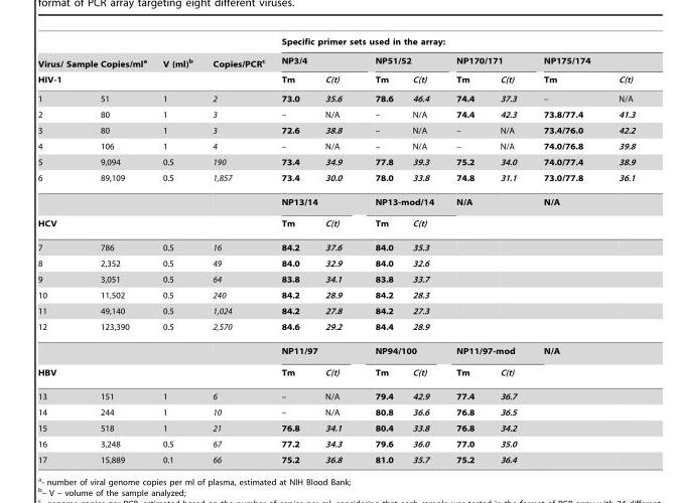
<table><thead><tr><td rowspan="3">Virus/ Sample HIV-1</td><td rowspan="3">Copies/ml<sup>a</sup></td><td rowspan="3">V (ml)<sup>b</sup></td><td rowspan="3">Copies/PCR<sup>c</sup></td><td colspan="8">Specific primer sets used in the array:</td></tr><tr><td colspan="2">NP3/4</td><td colspan="2">NP51/52</td><td colspan="2">NP170/171</td><td colspan="2">NP175/174</td></tr><tr><td>Tm</td><td>C(t)</td><td>Tm</td><td>C(t)</td><td>Tm</td><td>C(t)</td><td>Tm</td><td>C(t)</td></tr></thead><tbody><tr><td>1</td><td>51</td><td>1</td><td>2</td><td>73.0</td><td>35.6</td><td>78.6</td><td>46.4</td><td>74.4</td><td>37.3</td><td>–</td><td>N/A</td></tr><tr><td>2</td><td>80</td><td>1</td><td>3</td><td>–</td><td>N/A</td><td>–</td><td>N/A</td><td>74.4</td><td>42.3</td><td>73.8/77.4</td><td>41.3</td></tr><tr><td>3</td><td>80</td><td>1</td><td>3</td><td>72.6</td><td>38.8</td><td>–</td><td>N/A</td><td>–</td><td>N/A</td><td>73.4/76.0</td><td>42.2</td></tr><tr><td>4</td><td>106</td><td>1</td><td>4</td><td>–</td><td>N/A</td><td>–</td><td>N/A</td><td>–</td><td>N/A</td><td>74.0/76.8</td><td>39.8</td></tr><tr><td>5</td><td>9,094</td><td>0.5</td><td>190</td><td>73.4</td><td>34.9</td><td>77.8</td><td>39.3</td><td>75.2</td><td>34.0</td><td>74.0/77.4</td><td>38.9</td></tr><tr><td rowspan="2">6</td><td>89,109</td><td>0.5</td><td>1,857</td><td>73.4</td><td>30.0</td><td>78.0</td><td>33.8</td><td>74.8</td><td>31.1</td><td>73.0/77.8</td><td>36.1</td></tr><tr><td></td><td></td><td></td><td colspan="2">NP13/14</td><td colspan="2">NP13-mod/14</td><td colspan="2">N/A</td><td colspan="2">N/A</td></tr><tr><td>HCV</td><td></td><td></td><td></td><td>Tm</td><td>C(t)</td><td>Tm</td><td>C(t)</td><td></td><td></td><td></td><td></td></tr><tr><td>7</td><td>786</td><td>0.5</td><td>16</td><td>84.2</td><td>37.6</td><td>84.0</td><td>35.3</td><td></td><td></td><td></td><td></td></tr><tr><td>8</td><td>2,352</td><td>0.5</td><td>49</td><td>84.0</td><td>32.9</td><td>84.0</td><td>32.6</td><td></td><td></td><td></td><td></td></tr><tr><td>9</td><td>3,051</td><td>0.5</td><td>64</td><td>83.8</td><td>34.1</td><td>83.8</td><td>33.7</td><td></td><td></td><td></td><td></td></tr><tr><td>10</td><td>11,502</td><td>0.5</td><td>240</td><td>84.2</td><td>28.9</td><td>84.2</td><td>28.3</td><td></td><td></td><td></td><td></td></tr><tr><td>11</td><td>49,140</td><td>0.5</td><td>1,024</td><td>84.2</td><td>27.8</td><td>84.2</td><td>27.3</td><td></td><td></td><td></td><td></td></tr><tr><td rowspan="2">12</td><td>123,390</td><td>0.5</td><td>2,570</td><td>84.6</td><td>29.2</td><td>84.4</td><td>28.9</td><td></td><td></td><td></td><td></td></tr><tr><td></td><td></td><td></td><td colspan="2">NP11/97</td><td colspan="2">NP94/100</td><td colspan="2">NP11/97-mod</td><td colspan="2">N/A</td></tr><tr><td>HBV</td><td></td><td></td><td></td><td>Tm</td><td>C(t)</td><td>Tm</td><td>C(t)</td><td>Tm</td><td>C(t)</td><td></td><td></td></tr><tr><td>13</td><td>151</td><td>1</td><td>6</td><td>–</td><td>N/A</td><td>79.4</td><td>42.9</td><td>77.4</td><td>36.7</td><td></td><td></td></tr><tr><td>14</td><td>244</td><td>1</td><td>10</td><td>–</td><td>N/A</td><td>80.8</td><td>36.6</td><td>76.8</td><td>36.5</td><td></td><td></td></tr><tr><td>15</td><td>518</td><td>1</td><td>21</td><td>76.8</td><td>34.1</td><td>80.4</td><td>33.8</td><td>76.8</td><td>34.2</td><td></td><td></td></tr><tr><td>16</td><td>3,248</td><td>0.5</td><td>67</td><td>77.2</td><td>34.3</td><td>79.6</td><td>36.0</td><td>77.0</td><td>35.0</td><td></td><td></td></tr><tr><td>17</td><td>15,889</td><td>0.1</td><td>66</td><td>75.2</td><td>36.8</td><td>81.0</td><td>35.7</td><td>75.2</td><td>36.4</td><td></td><td></td></tr></tbody></table>